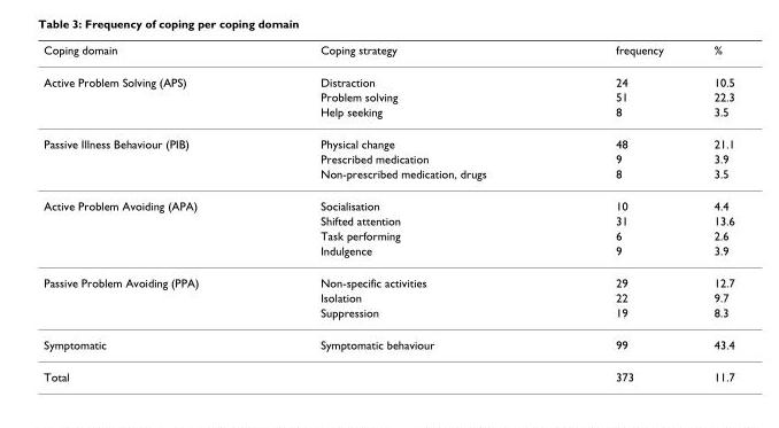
<table><thead><tr><td>Coping domain</td><td>Coping strategy</td><td>frequency</td><td>%</td></tr></thead><tbody><tr><td rowspan="3">Active Problem Solving (APS)</td><td>Distraction</td><td>24</td><td>10.5</td></tr><tr><td>Problem solving</td><td>51</td><td>22.3</td></tr><tr><td>Help seeking</td><td>8</td><td>3.5</td></tr><tr><td rowspan="3">Passive Illness Behaviour (PIB)</td><td>Physical change</td><td>48</td><td>21.1</td></tr><tr><td>Prescribed medication</td><td>9</td><td>3.9</td></tr><tr><td>Non-prescribed medication, drugs</td><td>8</td><td>3.5</td></tr><tr><td rowspan="4">Active Problem Avoiding (APA)</td><td>Socialisation</td><td>10</td><td>4.4</td></tr><tr><td>Shifted attention</td><td>31</td><td>13.6</td></tr><tr><td>Task performing</td><td>6</td><td>2.6</td></tr><tr><td>Indulgence</td><td>9</td><td>3.9</td></tr><tr><td rowspan="3">Passive Problem Avoiding (PPA)</td><td>Non-specific activities</td><td>29</td><td>12.7</td></tr><tr><td>Isolation</td><td>22</td><td>9.7</td></tr><tr><td>Suppression</td><td>19</td><td>8.3</td></tr><tr><td>Symptomatic</td><td>Symptomatic behaviour</td><td>99</td><td>43.4</td></tr><tr><td>Total</td><td></td><td>373</td><td>11.7</td></tr></tbody></table>